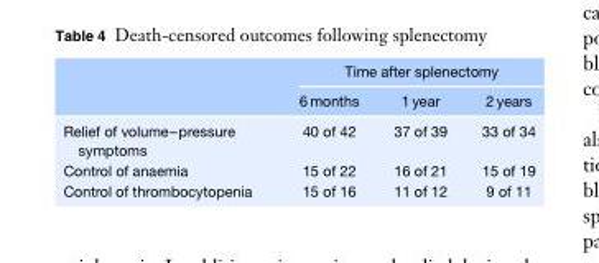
<table><thead><tr><td rowspan="2"></td><td colspan="3">Time after splenectomy</td></tr><tr><td>6 months</td><td>1 year</td><td>2 years</td></tr></thead><tbody><tr><td>Relief of volume–pressure symptoms</td><td>40 of 42</td><td>37 of 39</td><td>33 of 34</td></tr><tr><td>Control of anaemia</td><td>15 of 22</td><td>16 of 21</td><td>15 of 19</td></tr><tr><td>Control of thrombocytopenia</td><td>15 of 16</td><td>11 of 12</td><td>9 of 11</td></tr></tbody></table>